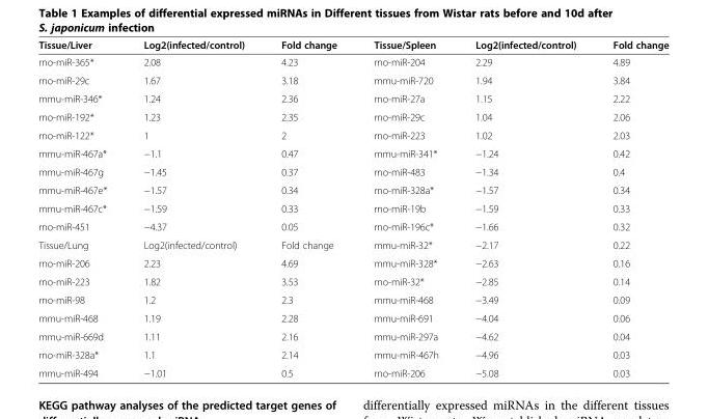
<table><thead><tr><td>Tissue/Liver</td><td>Log2(infected/control)</td><td>Fold change</td><td>Tissue/Spleen</td><td>Log2(infected/control)</td><td>Fold change</td></tr></thead><tbody><tr><td>rno-miR-365*</td><td>2.08</td><td>4.23</td><td>rno-miR-204</td><td>2.29</td><td>4.89</td></tr><tr><td>rno-miR-29c</td><td>1.67</td><td>3.18</td><td>mmu-miR-720</td><td>1.94</td><td>3.84</td></tr><tr><td>mmu-miR-346*</td><td>1.24</td><td>2.36</td><td>rno-miR-27a</td><td>1.15</td><td>2.22</td></tr><tr><td>rno-miR-192*</td><td>1.23</td><td>2.35</td><td>rno-miR-29c</td><td>1.04</td><td>2.06</td></tr><tr><td>rno-miR-122*</td><td>1</td><td>2</td><td>rno-miR-223</td><td>1.02</td><td>2.03</td></tr><tr><td>mmu-miR-467a*</td><td>−1.1</td><td>0.47</td><td>mmu-miR-341*</td><td>−1.24</td><td>0.42</td></tr><tr><td>mmu-miR-467g</td><td>−1.45</td><td>0.37</td><td>rno-miR-483</td><td>−1.34</td><td>0.4</td></tr><tr><td>mmu-miR-467e*</td><td>−1.57</td><td>0.34</td><td>rno-miR-328a*</td><td>−1.57</td><td>0.34</td></tr><tr><td>mmu-miR-467c*</td><td>−1.59</td><td>0.33</td><td>rno-miR-19b</td><td>−1.59</td><td>0.33</td></tr><tr><td>rno-miR-451</td><td>−4.37</td><td>0.05</td><td>rno-miR-196c*</td><td>−1.66</td><td>0.32</td></tr><tr><td>Tissue/Lung</td><td>Log2(infected/control)</td><td>Fold change</td><td>mmu-miR-32*</td><td>−2.17</td><td>0.22</td></tr><tr><td>rno-miR-206</td><td>2.23</td><td>4.69</td><td>mmu-miR-328*</td><td>−2.63</td><td>0.16</td></tr><tr><td>rno-miR-223</td><td>1.82</td><td>3.53</td><td>rno-miR-32*</td><td>−2.85</td><td>0.14</td></tr><tr><td>rno-miR-98</td><td>1.2</td><td>2.3</td><td>mmu-miR-468</td><td>−3.49</td><td>0.09</td></tr><tr><td>mmu-miR-468</td><td>1.19</td><td>2.28</td><td>mmu-miR-691</td><td>−4.04</td><td>0.06</td></tr><tr><td>mmu-miR-669d</td><td>1.11</td><td>2.16</td><td>mmu-miR-297a</td><td>−4.62</td><td>0.04</td></tr><tr><td>rno-miR-328a*</td><td>1.1</td><td>2.14</td><td>mmu-miR-467h</td><td>−4.96</td><td>0.03</td></tr><tr><td>mmu-miR-494</td><td>−1.01</td><td>0.5</td><td>rno-miR-206</td><td>−5.08</td><td>0.03</td></tr></tbody></table>